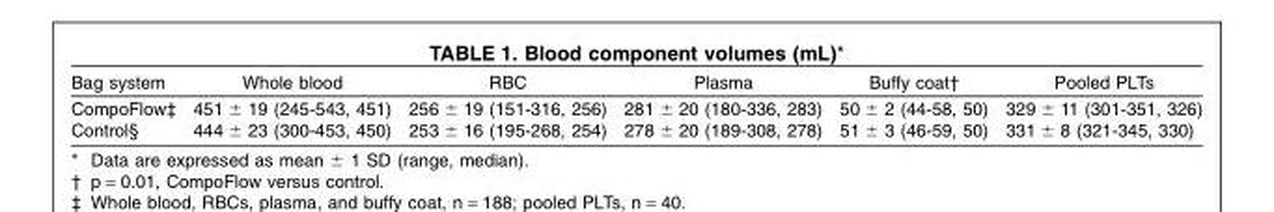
<table><thead><tr><td>Bag system</td><td>Whole blood</td><td>RBC</td><td>Plasma</td><td>Buffy coat†</td><td>Pooled PLTs</td></tr></thead><tbody><tr><td>CompoFlow‡</td><td>451 ± 19 (245-543, 451)</td><td>256 ± 19 (151-316, 256)</td><td>281 ± 20 (180-336, 283)</td><td>50 ± 2 (44-58, 50)</td><td>329 ± 11 (301-351, 326)</td></tr><tr><td>Control§</td><td>444 ± 23 (300-453, 450)</td><td>253 ± 16 (195-268, 254)</td><td>278 ± 20 (189-308, 278)</td><td>51 ± 3 (46-59, 50)</td><td>331 ± 8 (321-345, 330)</td></tr></tbody></table>